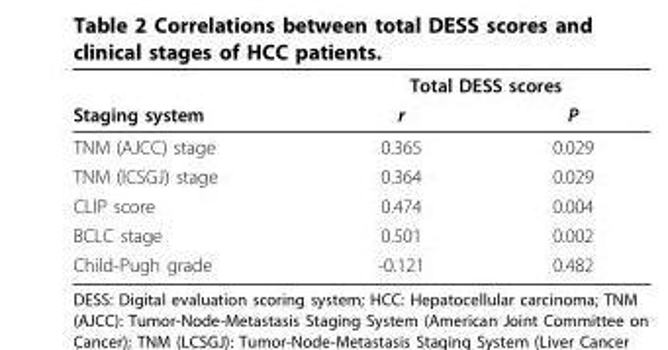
<table><thead><tr><td rowspan="2">Staging system</td><td colspan="2">Total DESS scores</td></tr><tr><td>r</td><td>P</td></tr></thead><tbody><tr><td>TNM (AJCC) stage</td><td>0.365</td><td>0.029</td></tr><tr><td>TNM (lCSGJ) stage</td><td>0.364</td><td>0.029</td></tr><tr><td>CLIP score</td><td>0.474</td><td>0.004</td></tr><tr><td>BCLC stage</td><td>0.501</td><td>0.002</td></tr><tr><td>Child-Pugh grade</td><td>-0.121</td><td>0.482</td></tr></tbody></table>